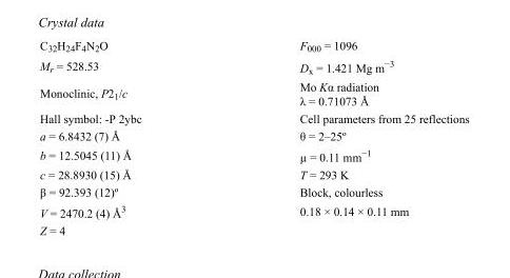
<table><tbody><tr><td>C<sub>32</sub>H<sub>24</sub>F<sub>4</sub>N<sub>2</sub>O</td><td>F000 = 1096</td></tr><tr><td>M<sub>r</sub> = 528.53</td><td>D<sub>x</sub> = 1.421 Mg m<sup>−3</sup></td></tr><tr><td>Monoclinic, P2<sub>1</sub>/c</td><td>Mo Kα radiation λ = 0.71073 Å</td></tr><tr><td>Hall symbol: -P 2ybc</td><td>Cell parameters from 25 reflections</td></tr><tr><td>a = 6.8432 (7) Å</td><td>θ = 2–25º</td></tr><tr><td>b = 12.5045 (11) Å</td><td>µ = 0.11 mm<sup>−1</sup></td></tr><tr><td>c = 28.8930 (15) Å</td><td>T = 293 K</td></tr><tr><td>β = 92.393 (12)º</td><td>Block, colourless</td></tr><tr><td>V = 2470.2 (4) Å<sup>3</sup></td><td>0.18 × 0.14 × 0.11 mm</td></tr><tr><td>Z = 4</td><td></td></tr></tbody></table>